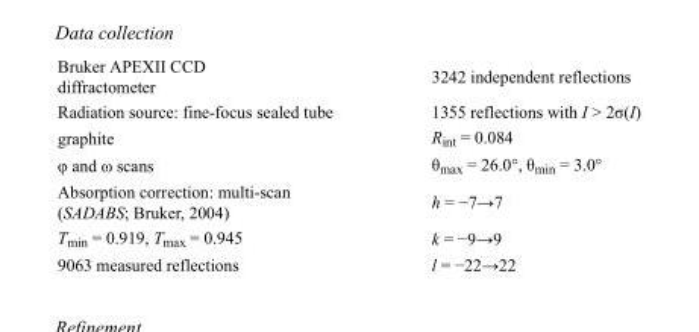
<table><tbody><tr><td>Bruker APEXII CCD diffractometer</td><td>3242 independent reflections</td></tr><tr><td>Radiation source: fine-focus sealed tube</td><td>1355 reflections with I &gt; 2σ(I)</td></tr><tr><td>graphite</td><td>R<sub>int</sub> = 0.084</td></tr><tr><td>φ and ω scans</td><td>θ<sub>max</sub> = 26.0°, θ<sub>min</sub> = 3.0°</td></tr><tr><td>Absorption correction: multi-scan (SADABS; Bruker, 2004)</td><td>h = −7→7</td></tr><tr><td>T<sub>min</sub> = 0.919, T<sub>max</sub> = 0.945</td><td>k = −9→9</td></tr><tr><td>9063 measured reflections</td><td>l = −22→22</td></tr></tbody></table>